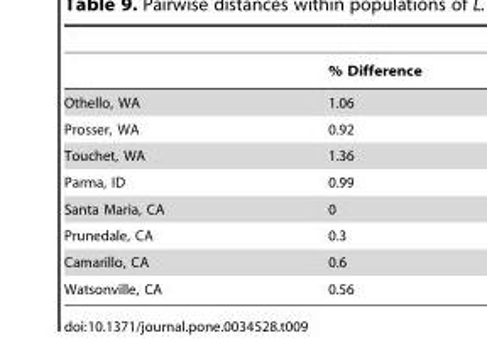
<table><thead><tr><td></td><td>% Difference</td></tr></thead><tbody><tr><td>Othello, WA</td><td>1.06</td></tr><tr><td>Prosser, WA</td><td>0.92</td></tr><tr><td>Touchet, WA</td><td>1.36</td></tr><tr><td>Parma, ID</td><td>0.99</td></tr><tr><td>Santa Maria, CA</td><td>0</td></tr><tr><td>Prunedale, CA</td><td>0.3</td></tr><tr><td>Camarillo, CA</td><td>0.6</td></tr><tr><td>Watsonville, CA</td><td>0.56</td></tr></tbody></table>